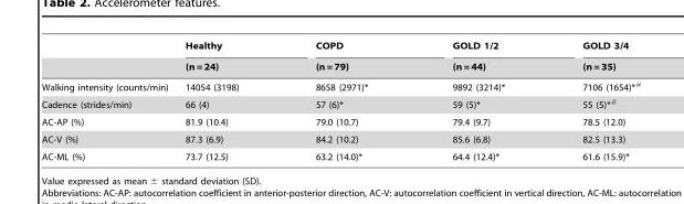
<table><thead><tr><td rowspan="2"></td><td rowspan="2">Healthy (n = 24)</td><td rowspan="2">COPD (n = 79)</td><td rowspan="2">GOLD 1/2 (n = 44)</td><td rowspan="2">GOLD 3/4 (n = 35)</td></tr><tr></tr></thead><tbody><tr><td>Walking intensity (counts/min)</td><td>14054 (3198)</td><td>8658 (2971)*</td><td>9892 (3214)*</td><td>7106 (1654)*#</td></tr><tr><td>Cadence (strides/min)</td><td>66 (4)</td><td>57 (6)*</td><td>59 (5)*</td><td>55 (5)*#</td></tr><tr><td>AC-AP (%)</td><td>81.9 (10.4)</td><td>79.0 (10.7)</td><td>79.4 (9.7)</td><td>78.5 (12.0)</td></tr><tr><td>AC-V (%)</td><td>87.3 (6.9)</td><td>84.2 (10.2)</td><td>85.6 (6.8)</td><td>82.5 (13.3)</td></tr><tr><td>AC-ML (%)</td><td>73.7 (12.5)</td><td>63.2 (14.0)*</td><td>64.4 (12.4)*</td><td>61.6 (15.9)*</td></tr></tbody></table>